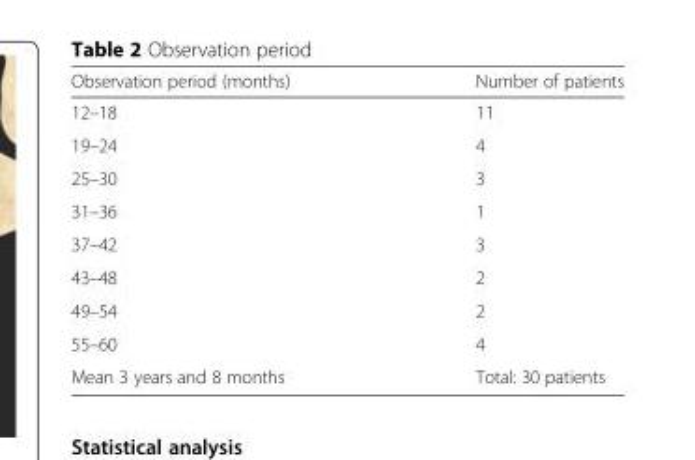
<table><thead><tr><td>Observation period (months)</td><td>Number of patients</td></tr></thead><tbody><tr><td>12–18</td><td>11</td></tr><tr><td>19–24</td><td>4</td></tr><tr><td>25–30</td><td>3</td></tr><tr><td>31–36</td><td>1</td></tr><tr><td>37–42</td><td>3</td></tr><tr><td>43–48</td><td>2</td></tr><tr><td>49–54</td><td>2</td></tr><tr><td>55–60</td><td>4</td></tr><tr><td>Mean 3 years and 8 months</td><td>Total: 30 patients</td></tr></tbody></table>